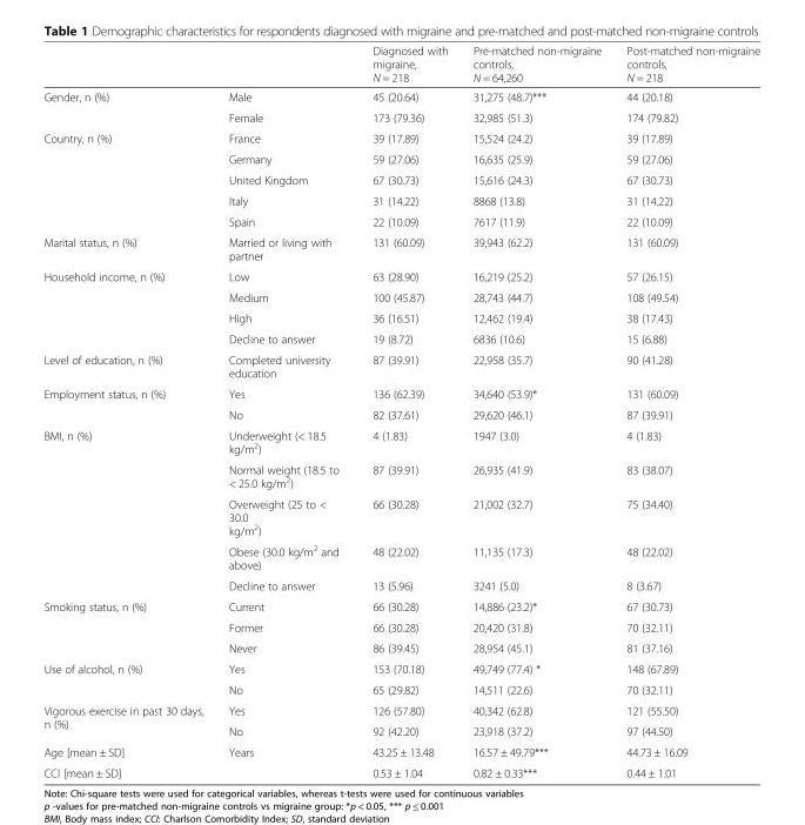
<table><thead><tr><td></td><td></td><td>Diagnosed with migraine, N = 218</td><td>Pre-matched non-migraine controls, N = 64,260</td><td>Post-matched non-migraine controls, N = 218</td></tr></thead><tbody><tr><td rowspan="2">Gender, n (%)</td><td>Male</td><td>45 (20.64)</td><td>31,275 (48.7)***</td><td>44 (20.18)</td></tr><tr><td>Female</td><td>173 (79.36)</td><td>32,985 (51.3)</td><td>174 (79.82)</td></tr><tr><td rowspan="5">Country, n (%)</td><td>France</td><td>39 (17.89)</td><td>15,524 (24.2)</td><td>39 (17.89)</td></tr><tr><td>Germany</td><td>59 (27.06)</td><td>16,635 (25.9)</td><td>59 (27.06)</td></tr><tr><td>United Kingdom</td><td>67 (30.73)</td><td>15,616 (24.3)</td><td>67 (30.73)</td></tr><tr><td>Italy</td><td>31 (14.22)</td><td>8868 (13.8)</td><td>31 (14.22)</td></tr><tr><td>Spain</td><td>22 (10.09)</td><td>7617 (11.9)</td><td>22 (10.09)</td></tr><tr><td>Marital status, n (%)</td><td>Married or living with partner</td><td>131 (60.09)</td><td>39,943 (62.2)</td><td>131 (60.09)</td></tr><tr><td rowspan="4">Household income, n (%)</td><td>Low</td><td>63 (28.90)</td><td>16,219 (25.2)</td><td>57 (26.15)</td></tr><tr><td>Medium</td><td>100 (45.87)</td><td>28,743 (44.7)</td><td>108 (49.54)</td></tr><tr><td>High</td><td>36 (16.51)</td><td>12,462 (19.4)</td><td>38 (17.43)</td></tr><tr><td>Decline to answer</td><td>19 (8.72)</td><td>6836 (10.6)</td><td>15 (6.88)</td></tr><tr><td>Level of education, n (%)</td><td>Completed university education</td><td>87 (39.91)</td><td>22,958 (35.7)</td><td>90 (41.28)</td></tr><tr><td rowspan="2">Employment status, n (%)</td><td>Yes</td><td>136 (62.39)</td><td>34,640 (53.9)*</td><td>131 (60.09)</td></tr><tr><td>No</td><td>82 (37.61)</td><td>29,620 (46.1)</td><td>87 (39.91)</td></tr><tr><td rowspan="5">BMI, n (%)</td><td>Underweight (&lt; 18.5 kg/m<sup>2</sup>)</td><td>4 (1.83)</td><td>1947 (3.0)</td><td>4 (1.83)</td></tr><tr><td>Normal weight (18.5 to &lt; 25.0 kg/m<sup>2</sup>)</td><td>87 (39.91)</td><td>26,935 (41.9)</td><td>83 (38.07)</td></tr><tr><td>Overweight (25 to &lt; 30.0 kg/m<sup>2</sup>)</td><td>66 (30.28)</td><td>21,002 (32.7)</td><td>75 (34.40)</td></tr><tr><td>Obese (30.0 kg/m<sup>2</sup> and above)</td><td>48 (22.02)</td><td>11,135 (17.3)</td><td>48 (22.02)</td></tr><tr><td>Decline to answer</td><td>13 (5.96)</td><td>3241 (5.0)</td><td>8 (3.67)</td></tr><tr><td rowspan="3">Smoking status, n (%)</td><td>Current</td><td>66 (30.28)</td><td>14,886 (23.2)*</td><td>67 (30.73)</td></tr><tr><td>Former</td><td>66 (30.28)</td><td>20,420 (31.8)</td><td>70 (32.11)</td></tr><tr><td>Never</td><td>86 (39.45)</td><td>28,954 (45.1)</td><td>81 (37.16)</td></tr><tr><td rowspan="2">Use of alcohol, n (%)</td><td>Yes</td><td>153 (70.18)</td><td>49,749 (77.4) *</td><td>148 (67.89)</td></tr><tr><td>No</td><td>65 (29.82)</td><td>14,511 (22.6)</td><td>70 (32.11)</td></tr><tr><td rowspan="2">Vigorous exercise in past 30 days, n (%)</td><td>Yes</td><td>126 (57.80)</td><td>40,342 (62.8)</td><td>121 (55.50)</td></tr><tr><td>No</td><td>92 (42.20)</td><td>23,918 (37.2)</td><td>97 (44.50)</td></tr><tr><td>Age [mean ± SD]</td><td>Years</td><td>43.25 ± 13.48</td><td>16.57 ± 49.79***</td><td>44.73 ± 16.09</td></tr><tr><td colspan="2">CCI [mean ± SD]</td><td>0.53 ± 1.04</td><td>0.82 ± 0.33***</td><td>0.44 ± 1.01</td></tr></tbody></table>